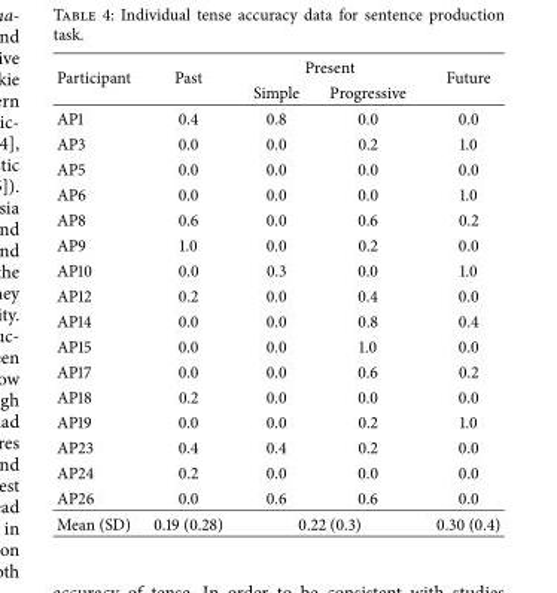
<table><thead><tr><td rowspan="2">Participant</td><td rowspan="2">Past</td><td colspan="2">Present</td><td rowspan="2">Future</td></tr><tr><td>Simple</td><td>Progressive</td></tr></thead><tbody><tr><td>AP1</td><td>0.4</td><td>0.8</td><td>0.0</td><td>0.0</td></tr><tr><td>AP3</td><td>0.0</td><td>0.0</td><td>0.2</td><td>1.0</td></tr><tr><td>AP5</td><td>0.0</td><td>0.0</td><td>0.0</td><td>0.0</td></tr><tr><td>AP6</td><td>0.0</td><td>0.0</td><td>0.0</td><td>1.0</td></tr><tr><td>AP8</td><td>0.6</td><td>0.0</td><td>0.6</td><td>0.2</td></tr><tr><td>AP9</td><td>1.0</td><td>0.0</td><td>0.2</td><td>0.0</td></tr><tr><td>AP10</td><td>0.0</td><td>0.3</td><td>0.0</td><td>1.0</td></tr><tr><td>AP12</td><td>0.2</td><td>0.0</td><td>0.4</td><td>0.0</td></tr><tr><td>AP14</td><td>0.0</td><td>0.0</td><td>0.8</td><td>0.4</td></tr><tr><td>AP15</td><td>0.0</td><td>0.0</td><td>1.0</td><td>0.0</td></tr><tr><td>AP17</td><td>0.0</td><td>0.0</td><td>0.6</td><td>0.2</td></tr><tr><td>AP18</td><td>0.2</td><td>0.0</td><td>0.0</td><td>0.0</td></tr><tr><td>AP19</td><td>0.0</td><td>0.0</td><td>0.2</td><td>1.0</td></tr><tr><td>AP23</td><td>0.4</td><td>0.4</td><td>0.2</td><td>0.0</td></tr><tr><td>AP24</td><td>0.2</td><td>0.0</td><td>0.0</td><td>0.0</td></tr><tr><td>AP26</td><td>0.0</td><td>0.6</td><td>0.6</td><td>0.0</td></tr><tr><td>Mean (SD)</td><td>0.19 (0.28)</td><td colspan="2">0.22 (0.3)</td><td>0.30 (0.4)</td></tr></tbody></table>